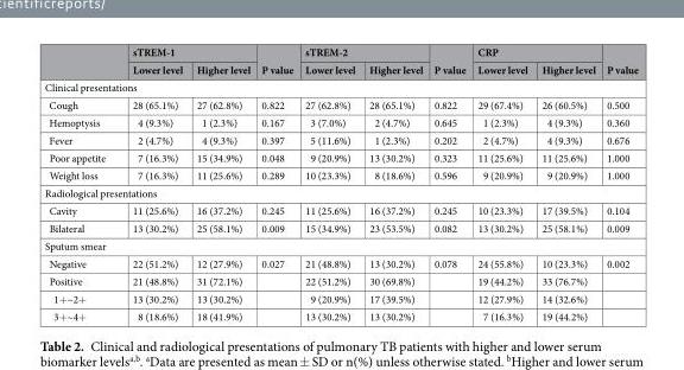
<table><thead><tr><td rowspan="2"></td><td colspan="2">sTREM-1</td><td rowspan="2">P value</td><td colspan="2">sTREM-2</td><td rowspan="2">P value</td><td colspan="2">CRP</td><td rowspan="2">P value</td></tr><tr><td>Lower level</td><td>Higher level</td><td>Lower level</td><td>Higher level</td><td>Lower level</td><td>Higher level</td></tr></thead><tbody><tr><td colspan="10">Clinical presentations</td></tr><tr><td>Cough</td><td>28 (65.1%)</td><td>27 (62.8%)</td><td>0.822</td><td>27 (62.8%)</td><td>28 (65.1%)</td><td>0.822</td><td>29 (67.4%)</td><td>26 (60.5%)</td><td>0.500</td></tr><tr><td>Hemoptysis</td><td>4 (9.3%)</td><td>1 (2.3%)</td><td>0.167</td><td>3 (7.0%)</td><td>2 (4.7%)</td><td>0.645</td><td>1 (2.3%)</td><td>4 (9.3%)</td><td>0.360</td></tr><tr><td>Fever</td><td>2 (4.7%)</td><td>4 (9.3%)</td><td>0.397</td><td>5 (11.6%)</td><td>1 (2.3%)</td><td>0.202</td><td>2 (4.7%)</td><td>4 (9.3%)</td><td>0.676</td></tr><tr><td>Poor appetite</td><td>7 (16.3%)</td><td>15 (34.9%)</td><td>0.048</td><td>9 (20.9%)</td><td>13 (30.2%)</td><td>0.323</td><td>11 (25.6%)</td><td>11 (25.6%)</td><td>1.000</td></tr><tr><td>Weight loss</td><td>7 (16.3%)</td><td>11 (25.6%)</td><td>0.289</td><td>10 (23.3%)</td><td>8 (18.6%)</td><td>0.596</td><td>9 (20.9%)</td><td>9 (20.9%)</td><td>1.000</td></tr><tr><td colspan="10">Radiological presentations</td></tr><tr><td>Cavity</td><td>11 (25.6%)</td><td>16 (37.2%)</td><td>0.245</td><td>11 (25.6%)</td><td>16 (37.2%)</td><td>0.245</td><td>10 (23.3%)</td><td>17 (39.5%)</td><td>0.104</td></tr><tr><td>Bilateral</td><td>13 (30.2%)</td><td>25 (58.1%)</td><td>0.009</td><td>15 (34.9%)</td><td>23 (53.5%)</td><td>0.082</td><td>13 (30.2%)</td><td>25 (58.1%)</td><td>0.009</td></tr><tr><td colspan="10">Sputum smear</td></tr><tr><td>Negative</td><td>22 (51.2%)</td><td>12 (27.9%)</td><td>0.027</td><td>21 (48.8%)</td><td>13 (30.2%)</td><td>0.078</td><td>24 (55.8%)</td><td>10 (23.3%)</td><td>0.002</td></tr><tr><td>Positive</td><td>21 (48.8%)</td><td>31 (72.1%)</td><td></td><td>22 (51.2%)</td><td>30 (69.8%)</td><td></td><td>19 (44.2%)</td><td>33 (76.7%)</td><td></td></tr><tr><td>1+~2+</td><td>13 (30.2%)</td><td>13 (30.2%)</td><td></td><td>9 (20.9%)</td><td>17 (39.5%)</td><td></td><td>12 (27.9%)</td><td>14 (32.6%)</td><td></td></tr><tr><td>3+~4+</td><td>8 (18.6%)</td><td>18 (41.9%)</td><td></td><td>13 (30.2%)</td><td>13 (30.2%)</td><td></td><td>7 (16.3%)</td><td>19 (44.2%)</td><td></td></tr></tbody></table>